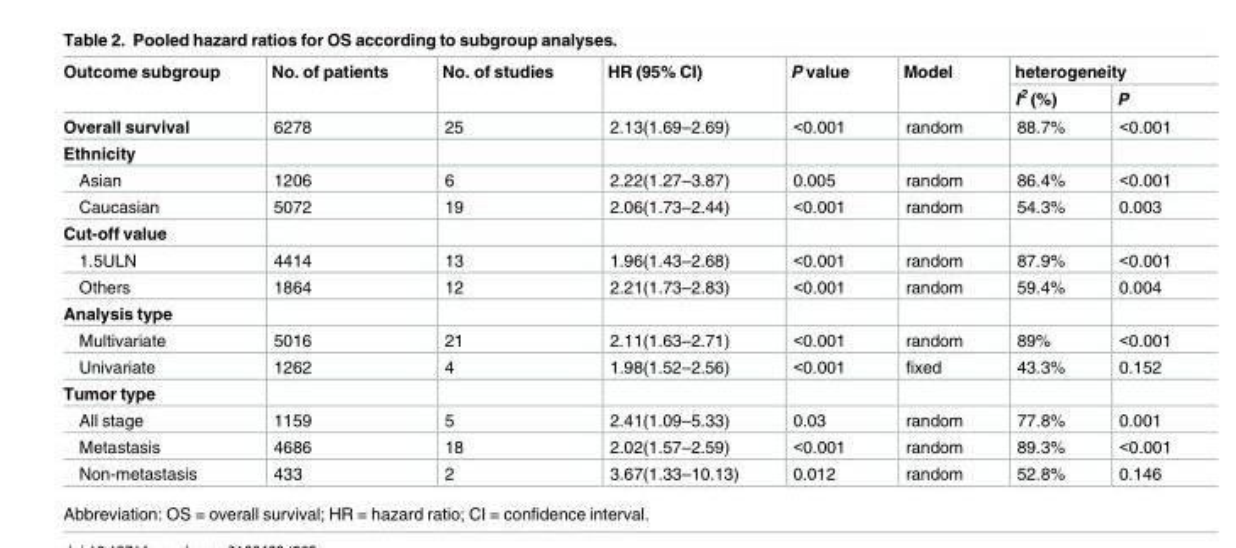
<table><thead><tr><td rowspan="2">Outcome subgroup</td><td rowspan="2">No. of patients</td><td rowspan="2">No. of studies</td><td rowspan="2">HR (95% CI)</td><td rowspan="2">P value</td><td rowspan="2">Model</td><td colspan="2">heterogeneity</td></tr><tr><td>I<sup>2</sup> (%)</td><td>P</td></tr></thead><tbody><tr><td>Overall survival</td><td>6278</td><td>25</td><td>2.13(1.69–2.69)</td><td>&lt;0.001</td><td>random</td><td>88.7%</td><td>&lt;0.001</td></tr><tr><td colspan="8">Ethnicity</td></tr><tr><td>Asian</td><td>1206</td><td>6</td><td>2.22(1.27–3.87)</td><td>0.005</td><td>random</td><td>86.4%</td><td>&lt;0.001</td></tr><tr><td>Caucasian</td><td>5072</td><td>19</td><td>2.06(1.73–2.44)</td><td>&lt;0.001</td><td>random</td><td>54.3%</td><td>0.003</td></tr><tr><td colspan="8">Cut-off value</td></tr><tr><td>1.5ULN</td><td>4414</td><td>13</td><td>1.96(1.43–2.68)</td><td>&lt;0.001</td><td>random</td><td>87.9%</td><td>&lt;0.001</td></tr><tr><td>Others</td><td>1864</td><td>12</td><td>2.21(1.73–2.83)</td><td>&lt;0.001</td><td>random</td><td>59.4%</td><td>0.004</td></tr><tr><td colspan="8">Analysis type</td></tr><tr><td>Multivariate</td><td>5016</td><td>21</td><td>2.11(1.63–2.71)</td><td>&lt;0.001</td><td>random</td><td>89%</td><td>&lt;0.001</td></tr><tr><td>Univariate</td><td>1262</td><td>4</td><td>1.98(1.52–2.56)</td><td>&lt;0.001</td><td>fixed</td><td>43.3%</td><td>0.152</td></tr><tr><td colspan="8">Tumor type</td></tr><tr><td>All stage</td><td>1159</td><td>5</td><td>2.41(1.09–5.33)</td><td>0.03</td><td>random</td><td>77.8%</td><td>0.001</td></tr><tr><td>Metastasis</td><td>4686</td><td>18</td><td>2.02(1.57–2.59)</td><td>&lt;0.001</td><td>random</td><td>89.3%</td><td>&lt;0.001</td></tr><tr><td>Non-metastasis</td><td>433</td><td>2</td><td>3.67(1.33–10.13)</td><td>0.012</td><td>random</td><td>52.8%</td><td>0.146</td></tr></tbody></table>